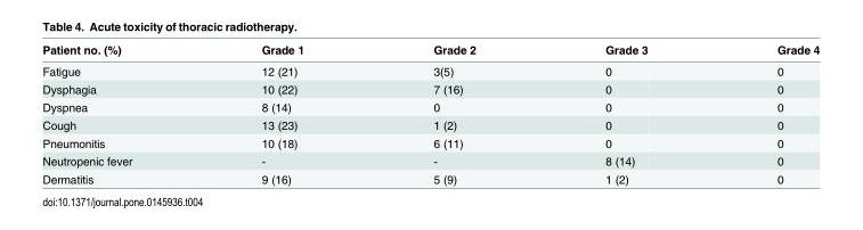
<table><thead><tr><td>Patient no. (%)</td><td>Grade 1</td><td>Grade 2</td><td>Grade 3</td><td>Grade 4</td></tr></thead><tbody><tr><td>Fatigue</td><td>12 (21)</td><td>3(5)</td><td>0</td><td>0</td></tr><tr><td>Dysphagia</td><td>10 (22)</td><td>7 (16)</td><td>0</td><td>0</td></tr><tr><td>Dyspnea</td><td>8 (14)</td><td>0</td><td>0</td><td>0</td></tr><tr><td>Cough</td><td>13 (23)</td><td>1 (2)</td><td>0</td><td>0</td></tr><tr><td>Pneumonitis</td><td>10 (18)</td><td>6 (11)</td><td>0</td><td>0</td></tr><tr><td>Neutropenic fever</td><td>-</td><td>-</td><td>8 (14)</td><td>0</td></tr><tr><td>Dermatitis</td><td>9 (16)</td><td>5 (9)</td><td>1 (2)</td><td>0</td></tr></tbody></table>